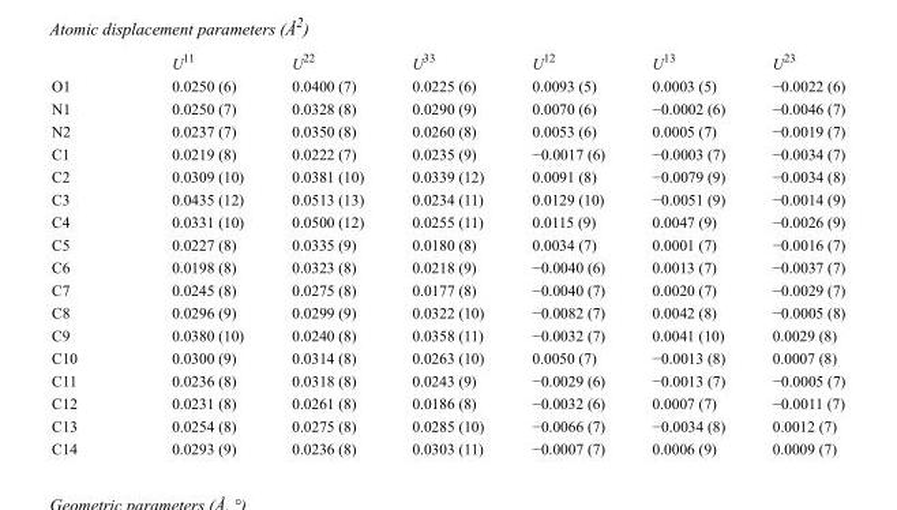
<table><thead><tr><td></td><td>U<sup>11</sup></td><td>U<sup>22</sup></td><td>U<sup>33</sup></td><td>U<sup>12</sup></td><td>U<sup>13</sup></td><td>U<sup>23</sup></td></tr></thead><tbody><tr><td>O1</td><td>0.0250 (6)</td><td>0.0400 (7)</td><td>0.0225 (6)</td><td>0.0093 (5)</td><td>0.0003 (5)</td><td>−0.0022 (6)</td></tr><tr><td>N1</td><td>0.0250 (7)</td><td>0.0328 (8)</td><td>0.0290 (9)</td><td>0.0070 (6)</td><td>−0.0002 (6)</td><td>−0.0046 (7)</td></tr><tr><td>N2</td><td>0.0237 (7)</td><td>0.0350 (8)</td><td>0.0260 (8)</td><td>0.0053 (6)</td><td>0.0005 (7)</td><td>−0.0019 (7)</td></tr><tr><td>C1</td><td>0.0219 (8)</td><td>0.0222 (7)</td><td>0.0235 (9)</td><td>−0.0017 (6)</td><td>−0.0003 (7)</td><td>−0.0034 (7)</td></tr><tr><td>C2</td><td>0.0309 (10)</td><td>0.0381 (10)</td><td>0.0339 (12)</td><td>0.0091 (8)</td><td>−0.0079 (9)</td><td>−0.0034 (8)</td></tr><tr><td>C3</td><td>0.0435 (12)</td><td>0.0513 (13)</td><td>0.0234 (11)</td><td>0.0129 (10)</td><td>−0.0051 (9)</td><td>−0.0014 (9)</td></tr><tr><td>C4</td><td>0.0331 (10)</td><td>0.0500 (12)</td><td>0.0255 (11)</td><td>0.0115 (9)</td><td>0.0047 (9)</td><td>−0.0026 (9)</td></tr><tr><td>C5</td><td>0.0227 (8)</td><td>0.0335 (9)</td><td>0.0180 (8)</td><td>0.0034 (7)</td><td>0.0001 (7)</td><td>−0.0016 (7)</td></tr><tr><td>C6</td><td>0.0198 (8)</td><td>0.0323 (8)</td><td>0.0218 (9)</td><td>−0.0040 (6)</td><td>0.0013 (7)</td><td>−0.0037 (7)</td></tr><tr><td>C7</td><td>0.0245 (8)</td><td>0.0275 (8)</td><td>0.0177 (8)</td><td>−0.0040 (7)</td><td>0.0020 (7)</td><td>−0.0029 (7)</td></tr><tr><td>C8</td><td>0.0296 (9)</td><td>0.0299 (9)</td><td>0.0322 (10)</td><td>−0.0082 (7)</td><td>0.0042 (8)</td><td>−0.0005 (8)</td></tr><tr><td>C9</td><td>0.0380 (10)</td><td>0.0240 (8)</td><td>0.0358 (11)</td><td>−0.0032 (7)</td><td>0.0041 (10)</td><td>0.0029 (8)</td></tr><tr><td>C10</td><td>0.0300 (9)</td><td>0.0314 (8)</td><td>0.0263 (10)</td><td>0.0050 (7)</td><td>−0.0013 (8)</td><td>0.0007 (8)</td></tr><tr><td>C11</td><td>0.0236 (8)</td><td>0.0318 (8)</td><td>0.0243 (9)</td><td>−0.0029 (6)</td><td>−0.0013 (7)</td><td>−0.0005 (7)</td></tr><tr><td>C12</td><td>0.0231 (8)</td><td>0.0261 (8)</td><td>0.0186 (8)</td><td>−0.0032 (6)</td><td>0.0007 (7)</td><td>−0.0011 (7)</td></tr><tr><td>C13</td><td>0.0254 (8)</td><td>0.0275 (8)</td><td>0.0285 (10)</td><td>−0.0066 (7)</td><td>−0.0034 (8)</td><td>0.0012 (7)</td></tr><tr><td>C14</td><td>0.0293 (9)</td><td>0.0236 (8)</td><td>0.0303 (11)</td><td>−0.0007 (7)</td><td>0.0006 (9)</td><td>0.0009 (7)</td></tr></tbody></table>